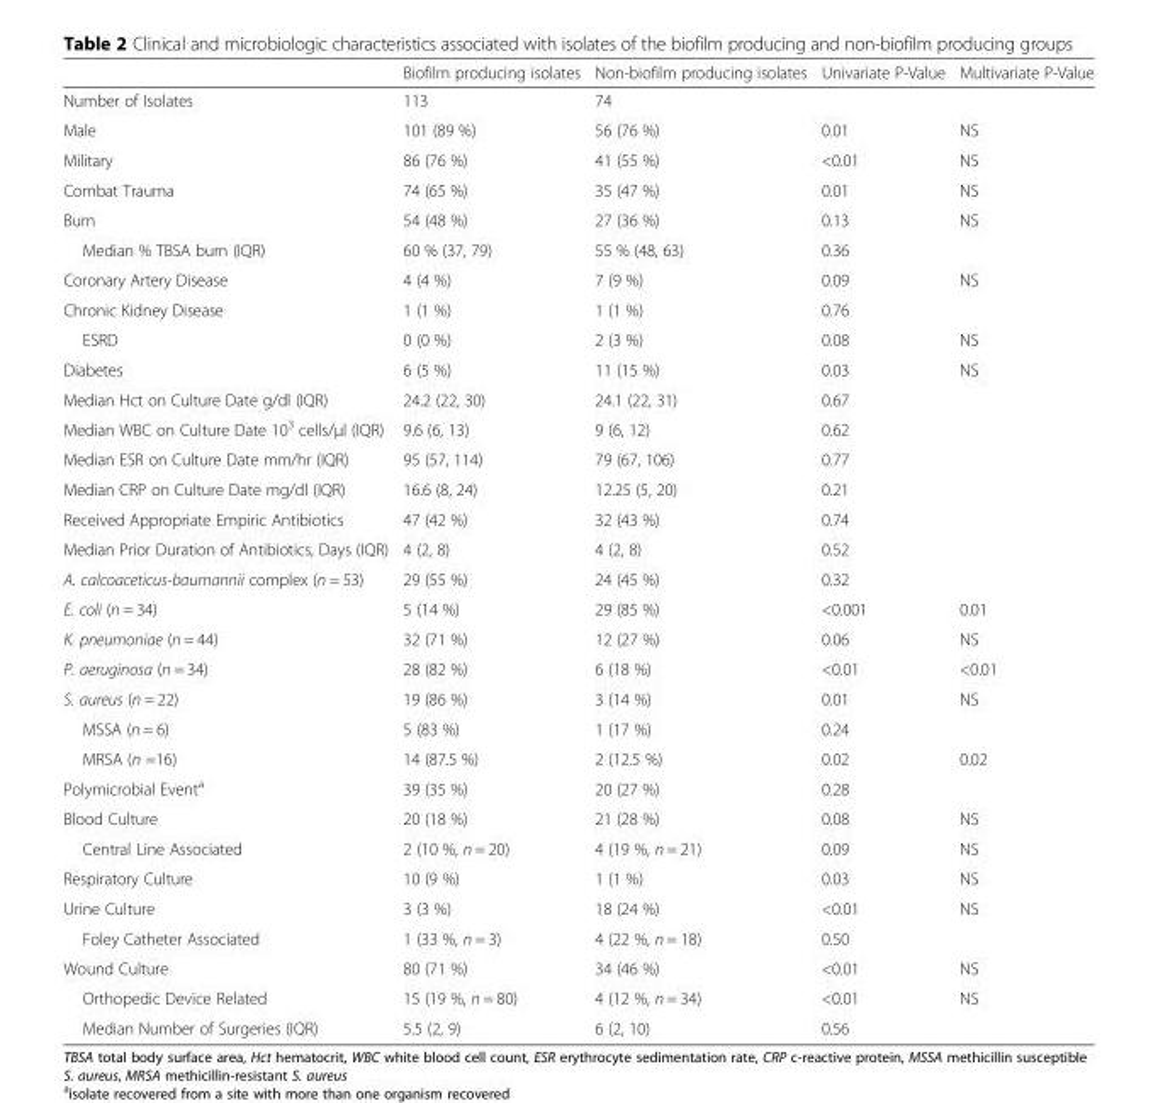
<table><thead><tr><td></td><td>Biofilm producing isolates</td><td>Non-biofilm producing isolates</td><td>Univariate P-Value</td><td>Multivariate P-Value</td></tr></thead><tbody><tr><td>Number of Isolates</td><td>113</td><td>74</td><td></td><td></td></tr><tr><td>Male</td><td>101 (89 %)</td><td>56 (76 %)</td><td>0.01</td><td>NS</td></tr><tr><td>Military</td><td>86 (76 %)</td><td>41 (55 %)</td><td>&lt;0.01</td><td>NS</td></tr><tr><td>Combat Trauma</td><td>74 (65 %)</td><td>35 (47 %)</td><td>0.01</td><td>NS</td></tr><tr><td>Burn</td><td>54 (48 %)</td><td>27 (36 %)</td><td>0.13</td><td>NS</td></tr><tr><td>Median % TBSA burn (IQR)</td><td>60 % (37, 79)</td><td>55 % (48, 63)</td><td>0.36</td><td></td></tr><tr><td>Coronary Artery Disease</td><td>4 (4 %)</td><td>7 (9 %)</td><td>0.09</td><td>NS</td></tr><tr><td>Chronic Kidney Disease</td><td>1 (1 %)</td><td>1 (1 %)</td><td>0.76</td><td></td></tr><tr><td>ESRD</td><td>0 (0 %)</td><td>2 (3 %)</td><td>0.08</td><td>NS</td></tr><tr><td>Diabetes</td><td>6 (5 %)</td><td>11 (15 %)</td><td>0.03</td><td>NS</td></tr><tr><td>Median Hct on Culture Date g/dl (IQR)</td><td>24.2 (22, 30)</td><td>24.1 (22, 31)</td><td>0.67</td><td></td></tr><tr><td>Median WBC on Culture Date 10<sup>3</sup> cells/μl (IQR)</td><td>9.6 (6, 13)</td><td>9 (6, 12)</td><td>0.62</td><td></td></tr><tr><td>Median ESR on Culture Date mm/hr (IQR)</td><td>95 (57, 114)</td><td>79 (67, 106)</td><td>0.77</td><td></td></tr><tr><td>Median CRP on Culture Date mg/dl (IQR)</td><td>16.6 (8, 24)</td><td>12.25 (5, 20)</td><td>0.21</td><td></td></tr><tr><td>Received Appropriate Empiric Antibiotics</td><td>47 (42 %)</td><td>32 (43 %)</td><td>0.74</td><td></td></tr><tr><td>Median Prior Duration of Antibiotics, Days (IQR)</td><td>4 (2, 8)</td><td>4 (2, 8)</td><td>0.52</td><td></td></tr><tr><td>A. calcoaceticus-baumannii complex (n = 53)</td><td>29 (55 %)</td><td>24 (45 %)</td><td>0.32</td><td></td></tr><tr><td>E. coli (n = 34)</td><td>5 (14 %)</td><td>29 (85 %)</td><td>&lt;0.001</td><td>0.01</td></tr><tr><td>K. pneumoniae (n = 44)</td><td>32 (71 %)</td><td>12 (27 %)</td><td>0.06</td><td>NS</td></tr><tr><td>P. aeruginosa (n = 34)</td><td>28 (82 %)</td><td>6 (18 %)</td><td>&lt;0.01</td><td>&lt;0.01</td></tr><tr><td>S. aureus (n = 22)</td><td>19 (86 %)</td><td>3 (14 %)</td><td>0.01</td><td>NS</td></tr><tr><td>MSSA (n = 6)</td><td>5 (83 %)</td><td>1 (17 %)</td><td>0.24</td><td></td></tr><tr><td>MRSA (n =16)</td><td>14 (87.5 %)</td><td>2 (12.5 %)</td><td>0.02</td><td>0.02</td></tr><tr><td>Polymicrobial Event<sup>a</sup></td><td>39 (35 %)</td><td>20 (27 %)</td><td>0.28</td><td></td></tr><tr><td>Blood Culture</td><td>20 (18 %)</td><td>21 (28 %)</td><td>0.08</td><td>NS</td></tr><tr><td>Central Line Associated</td><td>2 (10 %, n = 20)</td><td>4 (19 %, n = 21)</td><td>0.09</td><td>NS</td></tr><tr><td>Respiratory Culture</td><td>10 (9 %)</td><td>1 (1 %)</td><td>0.03</td><td>NS</td></tr><tr><td>Urine Culture</td><td>3 (3 %)</td><td>18 (24 %)</td><td>&lt;0.01</td><td>NS</td></tr><tr><td>Foley Catheter Associated</td><td>1 (33 %, n = 3)</td><td>4 (22 %, n = 18)</td><td>0.50</td><td></td></tr><tr><td>Wound Culture</td><td>80 (71 %)</td><td>34 (46 %)</td><td>&lt;0.01</td><td>NS</td></tr><tr><td>Orthopedic Device Related</td><td>15 (19 %, n = 80)</td><td>4 (12 %, n = 34)</td><td>&lt;0.01</td><td>NS</td></tr><tr><td>Median Number of Surgeries (IQR)</td><td>5.5 (2, 9)</td><td>6 (2, 10)</td><td>0.56</td><td></td></tr></tbody></table>